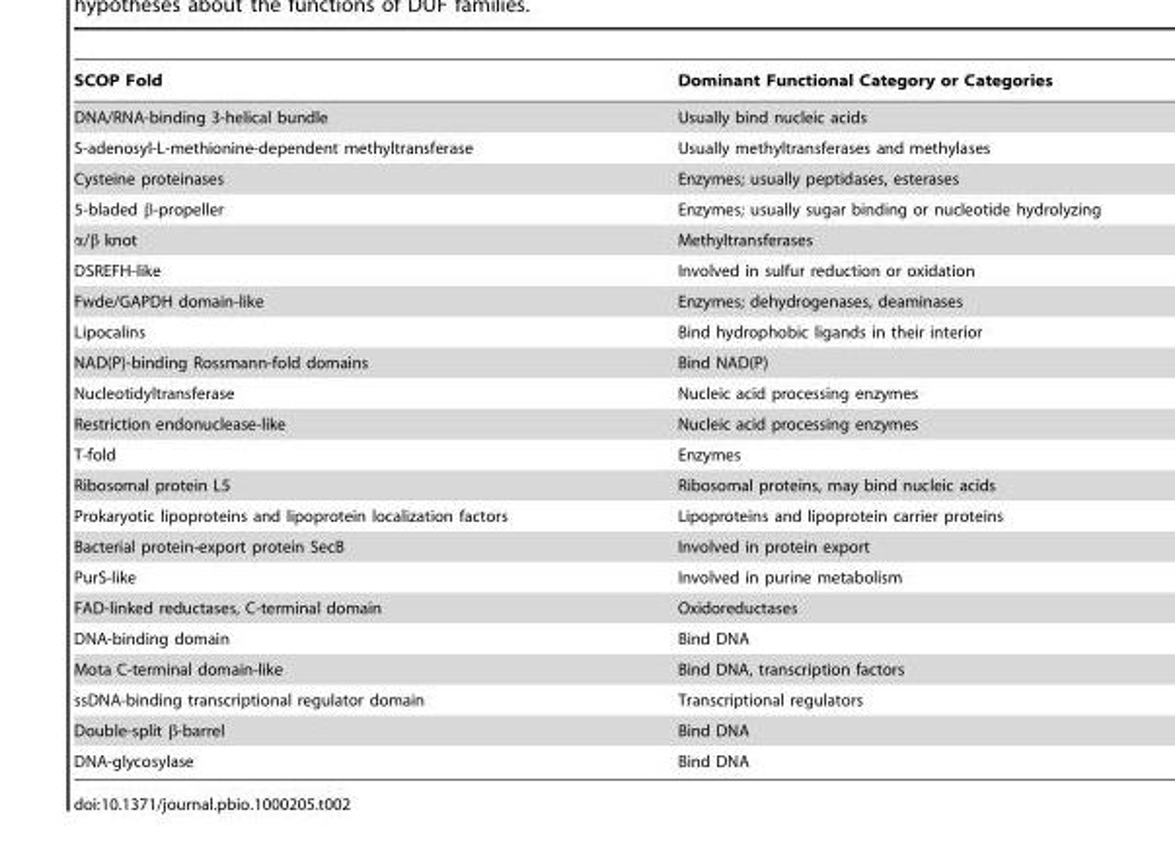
<table><thead><tr><td>SCOP Fold</td><td>Dominant Functional Category or Categories</td></tr></thead><tbody><tr><td>DNA/RNA-binding 3-helical bundle</td><td>Usually bind nucleic acids</td></tr><tr><td>S-adenosyl-L-methionine-dependent methyltransferase</td><td>Usually methyltransferases and methylases</td></tr><tr><td>Cysteine proteinases</td><td>Enzymes; usually peptidases, esterases</td></tr><tr><td>5-bladed β-propeller</td><td>Enzymes; usually sugar binding or nucleotide hydrolyzing</td></tr><tr><td>α/β knot</td><td>Methyltransferases</td></tr><tr><td>DSREFH-like</td><td>Involved in sulfur reduction or oxidation</td></tr><tr><td>Fwde/GAPDH domain-like</td><td>Enzymes; dehydrogenases, deaminases</td></tr><tr><td>Lipocalins</td><td>Bind hydrophobic ligands in their interior</td></tr><tr><td>NAD(P)-binding Rossmann-fold domains</td><td>Bind NAD(P)</td></tr><tr><td>Nucleotidyltransferase</td><td>Nucleic acid processing enzymes</td></tr><tr><td>Restriction endonuclease-like</td><td>Nucleic acid processing enzymes</td></tr><tr><td>T-fold</td><td>Enzymes</td></tr><tr><td>Ribosomal protein L5</td><td>Ribosomal proteins, may bind nucleic acids</td></tr><tr><td>Prokaryotic lipoproteins and lipoprotein localization factors</td><td>Lipoproteins and lipoprotein carrier proteins</td></tr><tr><td>Bacterial protein-export protein SecB</td><td>Involved in protein export</td></tr><tr><td>PurS-like</td><td>Involved in purine metabolism</td></tr><tr><td>FAD-linked reductases, C-terminal domain</td><td>Oxidoreductases</td></tr><tr><td>DNA-binding domain</td><td>Bind DNA</td></tr><tr><td>Mota C-terminal domain-like</td><td>Bind DNA, transcription factors</td></tr><tr><td>ssDNA-binding transcriptional regulator domain</td><td>Transcriptional regulators</td></tr><tr><td>Double-split β-barrel</td><td>Bind DNA</td></tr><tr><td>DNA-glycosylase</td><td>Bind DNA</td></tr></tbody></table>